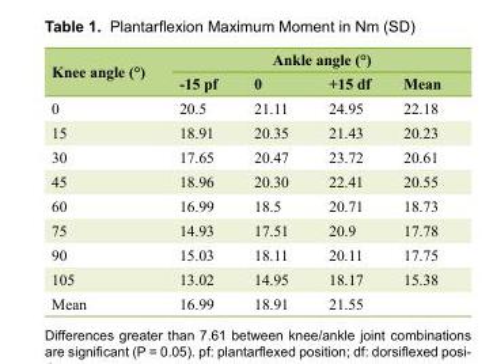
<table><thead><tr><td rowspan="2">Knee angle (°)</td><td colspan="4">Ankle angle (°)</td></tr><tr><td>-15 pf</td><td>0</td><td>+15 df</td><td>Mean</td></tr></thead><tbody><tr><td>0</td><td>20.5</td><td>21.11</td><td>24.95</td><td>22.18</td></tr><tr><td>15</td><td>18.91</td><td>20.35</td><td>21.43</td><td>20.23</td></tr><tr><td>30</td><td>17.65</td><td>20.47</td><td>23.72</td><td>20.61</td></tr><tr><td>45</td><td>18.96</td><td>20.30</td><td>22.41</td><td>20.55</td></tr><tr><td>60</td><td>16.99</td><td>18.5</td><td>20.71</td><td>18.73</td></tr><tr><td>75</td><td>14.93</td><td>17.51</td><td>20.9</td><td>17.78</td></tr><tr><td>90</td><td>15.03</td><td>18.11</td><td>20.11</td><td>17.75</td></tr><tr><td>105</td><td>13.02</td><td>14.95</td><td>18.17</td><td>15.38</td></tr><tr><td>Mean</td><td>16.99</td><td>18.91</td><td>21.55</td><td></td></tr></tbody></table>